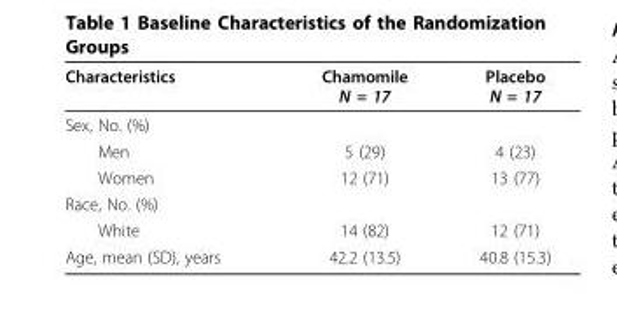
<table><thead><tr><td>Characteristics</td><td>Chamomile N = 17</td><td>Placebo N = 17</td></tr></thead><tbody><tr><td colspan="3">Sex, No. (%)</td></tr><tr><td>Men</td><td>5 (29)</td><td>4 (23)</td></tr><tr><td>Women</td><td>12 (71)</td><td>13 (77)</td></tr><tr><td colspan="3">Race, No. (%)</td></tr><tr><td>White</td><td>14 (82)</td><td>12 (71)</td></tr><tr><td>Age, mean (SD), years</td><td>42.2 (13.5)</td><td>40.8 (15.3)</td></tr></tbody></table>